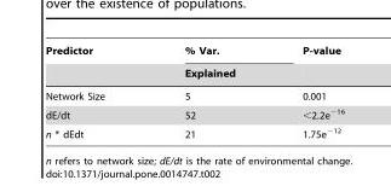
<table><thead><tr><td rowspan="2">Predictor</td><td rowspan="2">% Var. Explained</td><td rowspan="2">P-value</td></tr><tr></tr></thead><tbody><tr><td>Network Size</td><td>5</td><td>0.001</td></tr><tr><td>dE/dt</td><td>52</td><td>&lt;2.2e<sup>−16</sup></td></tr><tr><td>n * dEdt</td><td>21</td><td>1.75e<sup>−12</sup></td></tr></tbody></table>